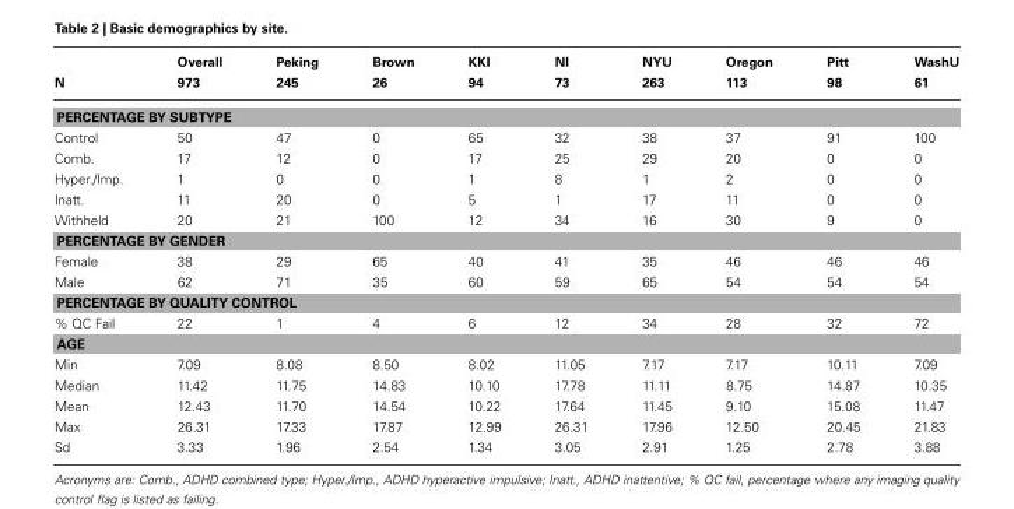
<table><thead><tr><td rowspan="2">N</td><td rowspan="2">Overall 973</td><td rowspan="2">Peking 245</td><td rowspan="2">Brown 26</td><td rowspan="2">KKI 94</td><td rowspan="2">NI 73</td><td rowspan="2">NYU 263</td><td rowspan="2">Oregon 113</td><td rowspan="2">Pitt 98</td><td rowspan="2">WashU 61</td></tr><tr></tr></thead><tbody><tr><td colspan="10">PERCENTAGE BY SUBTYPE</td></tr><tr><td>Control</td><td>50</td><td>47</td><td>0</td><td>65</td><td>32</td><td>38</td><td>37</td><td>91</td><td>100</td></tr><tr><td>Comb.</td><td>17</td><td>12</td><td>0</td><td>17</td><td>25</td><td>29</td><td>20</td><td>0</td><td>0</td></tr><tr><td>Hyper./Imp.</td><td>1</td><td>0</td><td>0</td><td>1</td><td>8</td><td>1</td><td>2</td><td>0</td><td>0</td></tr><tr><td>Inatt.</td><td>11</td><td>20</td><td>0</td><td>5</td><td>1</td><td>17</td><td>11</td><td>0</td><td>0</td></tr><tr><td>Withheld</td><td>20</td><td>21</td><td>100</td><td>12</td><td>34</td><td>16</td><td>30</td><td>9</td><td>0</td></tr><tr><td colspan="10">PERCENTAGE BY GENDER</td></tr><tr><td>Female</td><td>38</td><td>29</td><td>65</td><td>40</td><td>41</td><td>35</td><td>46</td><td>46</td><td>46</td></tr><tr><td>Male</td><td>62</td><td>71</td><td>35</td><td>60</td><td>59</td><td>65</td><td>54</td><td>54</td><td>54</td></tr><tr><td colspan="10">PERCENTAGE BY QUALITY CONTROL</td></tr><tr><td>% QC Fail</td><td>22</td><td>1</td><td>4</td><td>6</td><td>12</td><td>34</td><td>28</td><td>32</td><td>72</td></tr><tr><td colspan="10">AGE</td></tr><tr><td>Min</td><td>7.09</td><td>8.08</td><td>8.50</td><td>8.02</td><td>11.05</td><td>7.17</td><td>7.17</td><td>10.11</td><td>7.09</td></tr><tr><td>Median</td><td>11.42</td><td>11.75</td><td>14.83</td><td>10.10</td><td>17.78</td><td>11.11</td><td>8.75</td><td>14.87</td><td>10.35</td></tr><tr><td>Mean</td><td>12.43</td><td>11.70</td><td>14.54</td><td>10.22</td><td>17.64</td><td>11.45</td><td>9.10</td><td>15.08</td><td>11.47</td></tr><tr><td>Max</td><td>26.31</td><td>17.33</td><td>17.87</td><td>12.99</td><td>26.31</td><td>17.96</td><td>12.50</td><td>20.45</td><td>21.83</td></tr><tr><td>Sd</td><td>3.33</td><td>1.96</td><td>2.54</td><td>1.34</td><td>3.05</td><td>2.91</td><td>1.25</td><td>2.78</td><td>3.88</td></tr></tbody></table>